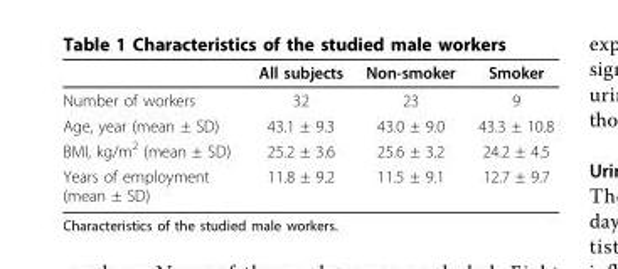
<table><thead><tr><td></td><td>All subjects</td><td>Non-smoker</td><td>Smoker</td></tr></thead><tbody><tr><td>Number of workers</td><td>32</td><td>23</td><td>9</td></tr><tr><td>Age, year (mean ± SD)</td><td>43.1 ± 9.3</td><td>43.0 ± 9.0</td><td>43.3 ± 10.8</td></tr><tr><td>BMI, kg/m<sup>2</sup> (mean ± SD)</td><td>25.2 ± 3.6</td><td>25.6 ± 3.2</td><td>24.2 ± 4.5</td></tr><tr><td>Years of employment (mean ± SD)</td><td>11.8 ± 9.2</td><td>11.5 ± 9.1</td><td>12.7 ± 9.7</td></tr></tbody></table>